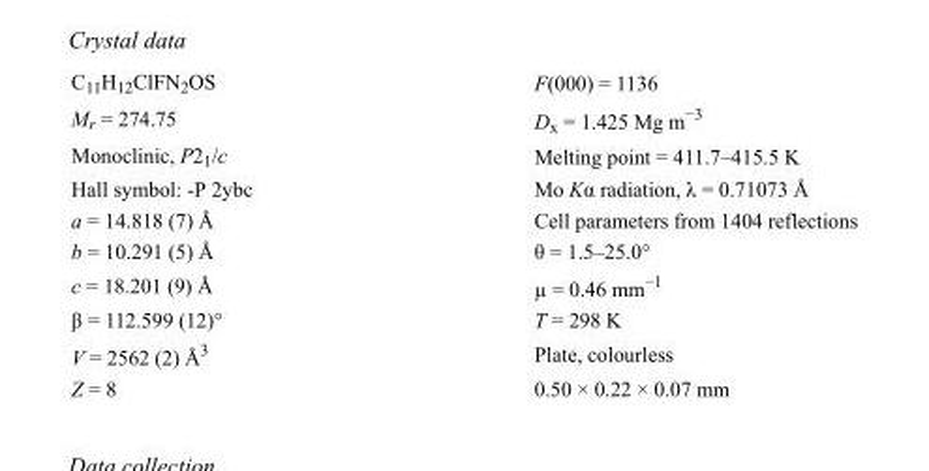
<table><tbody><tr><td>C<sub>11</sub>H<sub>12</sub>ClFN<sub>2</sub>OS</td><td>F(000) = 1136</td></tr><tr><td>M<sub>r</sub> = 274.75</td><td>D<sub>x</sub> = 1.425 Mg m<sup>−3</sup></td></tr><tr><td>Monoclinic, P2<sub>1</sub>/c</td><td>Melting point = 411.7–415.5 K</td></tr><tr><td>Hall symbol: -P 2ybc</td><td>Mo Kα radiation, λ = 0.71073 Å</td></tr><tr><td>a = 14.818 (7) Å</td><td>Cell parameters from 1404 reflections</td></tr><tr><td>b = 10.291 (5) Å</td><td>θ = 1.5–25.0°</td></tr><tr><td>c = 18.201 (9) Å</td><td>µ = 0.46 mm<sup>−1</sup></td></tr><tr><td>β = 112.599 (12)°</td><td>T = 298 K</td></tr><tr><td>V = 2562 (2) Å<sup>3</sup></td><td>Plate, colourless</td></tr><tr><td>Z = 8</td><td>0.50 × 0.22 × 0.07 mm</td></tr></tbody></table>